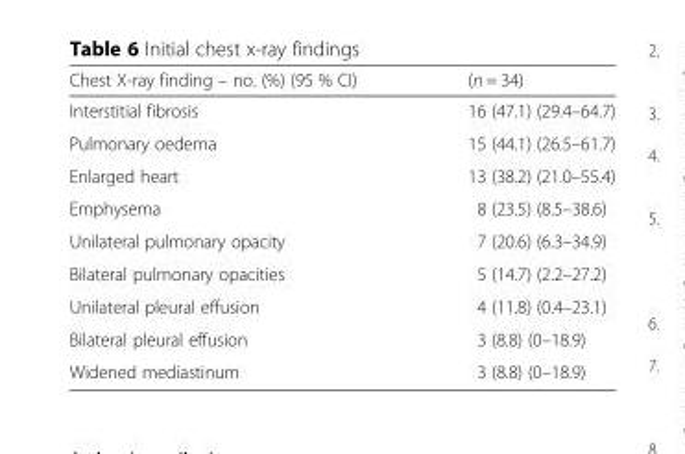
<table><thead><tr><td>Chest X-ray finding – no. (%) (95 % CI)</td><td>(n = 34)</td></tr></thead><tbody><tr><td>Interstitial fibrosis</td><td>16 (47.1) (29.4–64.7)</td></tr><tr><td>Pulmonary oedema</td><td>15 (44.1) (26.5–61.7)</td></tr><tr><td>Enlarged heart</td><td>13 (38.2) (21.0–55.4)</td></tr><tr><td>Emphysema</td><td>8 (23.5) (8.5–38.6)</td></tr><tr><td>Unilateral pulmonary opacity</td><td>7 (20.6) (6.3–34.9)</td></tr><tr><td>Bilateral pulmonary opacities</td><td>5 (14.7) (2.2–27.2)</td></tr><tr><td>Unilateral pleural effusion</td><td>4 (11.8) (0.4–23.1)</td></tr><tr><td>Bilateral pleural effusion</td><td>3 (8.8) (0–18.9)</td></tr><tr><td>Widened mediastinum</td><td>3 (8.8) (0–18.9)</td></tr></tbody></table>